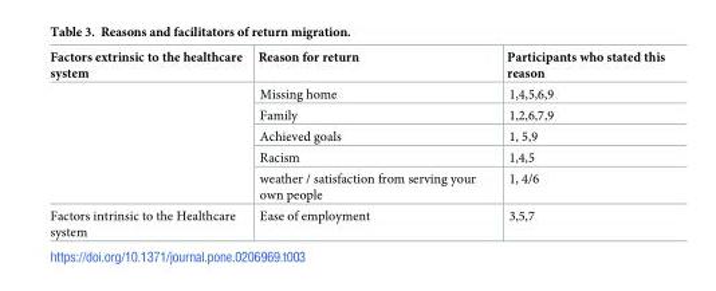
<table><thead><tr><td>Factors extrinsic to the healthcare system</td><td>Reason for return</td><td>Participants who stated this reason</td></tr></thead><tbody><tr><td rowspan="5"></td><td>Missing home</td><td>1,4,5,6,9</td></tr><tr><td>Family</td><td>1,2,6,7,9</td></tr><tr><td>Achieved goals</td><td>1, 5,9</td></tr><tr><td>Racism</td><td>1,4,5</td></tr><tr><td>weather / satisfaction from serving your own people</td><td>1, 4/6</td></tr><tr><td>Factors intrinsic to the Healthcare system</td><td>Ease of employment</td><td>3,5,7</td></tr></tbody></table>